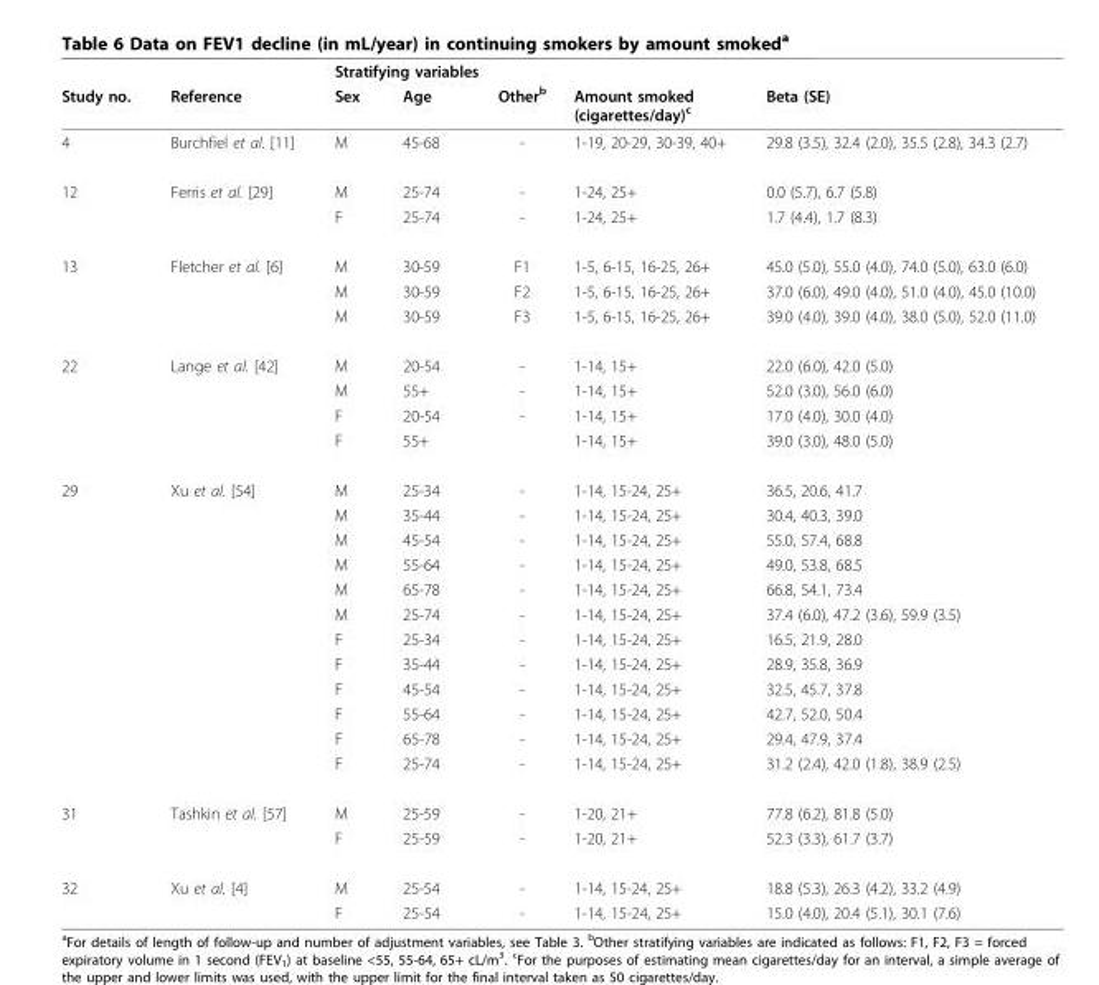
<table><thead><tr><td rowspan="2">Study no.</td><td rowspan="2">Reference</td><td colspan="3">Stratifying variables</td><td rowspan="2">Amount smoked (cigarettes/day)<sup>c</sup></td><td rowspan="2">Beta (SE)</td></tr><tr><td>Sex</td><td>Age</td><td>Other<sup>b</sup></td></tr></thead><tbody><tr><td>4</td><td>Burchfiel et al. [11]</td><td>M</td><td>45-68</td><td>-</td><td>1-19, 20-29, 30-39, 40+</td><td>29.8 (3.5), 32.4 (2.0), 35.5 (2.8), 34.3 (2.7)</td></tr><tr><td rowspan="2">12</td><td>Ferris et al. [29]</td><td>M</td><td>25-74</td><td>-</td><td>1-24, 25+</td><td>0.0 (5.7), 6.7 (5.8)</td></tr><tr><td></td><td>F</td><td>25-74</td><td>-</td><td>1-24, 25+</td><td>1.7 (4.4), 1.7 (8.3)</td></tr><tr><td rowspan="3">13</td><td>Fletcher et al. [6]</td><td>M</td><td>30-59</td><td>F1</td><td>1-5, 6-15, 16-25, 26+</td><td>45.0 (5.0), 55.0 (4.0), 74.0 (5.0), 63.0 (6.0)</td></tr><tr><td></td><td>M</td><td>30-59</td><td>F2</td><td>1-5, 6-15, 16-25, 26+</td><td>37.0 (6.0), 49.0 (4.0), 51.0 (4.0), 45.0 (10.0)</td></tr><tr><td></td><td>M</td><td>30-59</td><td>F3</td><td>1-5, 6-15, 16-25, 26+</td><td>39.0 (4.0), 39.0 (4.0), 38.0 (5.0), 52.0 (11.0)</td></tr><tr><td rowspan="4">22</td><td>Lange et al. [42]</td><td>M</td><td>20-54</td><td>-</td><td>1-14, 15+</td><td>22.0 (6.0), 42.0 (5.0)</td></tr><tr><td></td><td>M</td><td>55+</td><td>-</td><td>1-14, 15+</td><td>52.0 (3.0), 56.0 (6.0)</td></tr><tr><td></td><td>F</td><td>20-54</td><td>-</td><td>1-14, 15+</td><td>17.0 (4.0), 30.0 (4.0)</td></tr><tr><td></td><td>F</td><td>55+</td><td></td><td>1-14, 15+</td><td>39.0 (3.0), 48.0 (5.0)</td></tr><tr><td rowspan="12">29</td><td>Xu et al. [54]</td><td>M</td><td>25-34</td><td>-</td><td>1-14, 15-24, 25+</td><td>36.5, 20.6, 41.7</td></tr><tr><td></td><td>M</td><td>35-44</td><td>-</td><td>1-14, 15-24, 25+</td><td>30.4, 40.3, 39.0</td></tr><tr><td></td><td>M</td><td>45-54</td><td>-</td><td>1-14, 15-24, 25+</td><td>55.0, 57.4, 68.8</td></tr><tr><td></td><td>M</td><td>55-64</td><td>-</td><td>1-14, 15-24, 25+</td><td>49.0, 53.8, 68.5</td></tr><tr><td></td><td>M</td><td>65-78</td><td>-</td><td>1-14, 15-24, 25+</td><td>66.8, 54.1, 73.4</td></tr><tr><td></td><td>M</td><td>25-74</td><td>-</td><td>1-14, 15-24, 25+</td><td>37.4 (6.0), 47.2 (3.6), 59.9 (3.5)</td></tr><tr><td></td><td>F</td><td>25-34</td><td>-</td><td>1-14, 15-24, 25+</td><td>16.5, 21.9, 28.0</td></tr><tr><td></td><td>F</td><td>35-44</td><td>-</td><td>1-14, 15-24, 25+</td><td>28.9, 35.8, 36.9</td></tr><tr><td></td><td>F</td><td>45-54</td><td>-</td><td>1-14, 15-24, 25+</td><td>32.5, 45.7, 37.8</td></tr><tr><td></td><td>F</td><td>55-64</td><td>-</td><td>1-14, 15-24, 25+</td><td>42.7, 52.0, 50.4</td></tr><tr><td></td><td>F</td><td>65-78</td><td>-</td><td>1-14, 15-24, 25+</td><td>29.4, 47.9, 37.4</td></tr><tr><td></td><td>F</td><td>25-74</td><td>-</td><td>1-14, 15-24, 25+</td><td>31.2 (2.4), 42.0 (1.8), 38.9 (2.5)</td></tr><tr><td rowspan="2">31</td><td>Tashkin et al. [57]</td><td>M</td><td>25-59</td><td>-</td><td>1-20, 21+</td><td>77.8 (6.2), 81.8 (5.0)</td></tr><tr><td></td><td>F</td><td>25-59</td><td>-</td><td>1-20, 21+</td><td>52.3 (3.3), 61.7 (3.7)</td></tr><tr><td rowspan="2">32</td><td>Xu et al. [4]</td><td>M</td><td>25-54</td><td>-</td><td>1-14, 15-24, 25+</td><td>18.8 (5.3), 26.3 (4.2), 33.2 (4.9)</td></tr><tr><td></td><td>F</td><td>25-54</td><td>-</td><td>1-14, 15-24, 25+</td><td>15.0 (4.0), 20.4 (5.1), 30.1 (7.6)</td></tr></tbody></table>